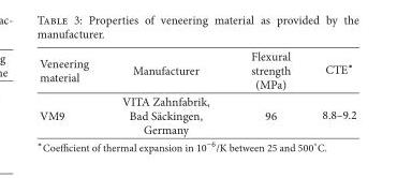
<table><thead><tr><td>Veneering material</td><td>Manufacturer</td><td>Flexural strength (MPa)</td><td>CTE∗</td></tr></thead><tbody><tr><td>VM9</td><td>VITA Zahnfabrik, Bad S¨ackingen, Germany</td><td>96</td><td>8.8–9.2</td></tr></tbody></table>